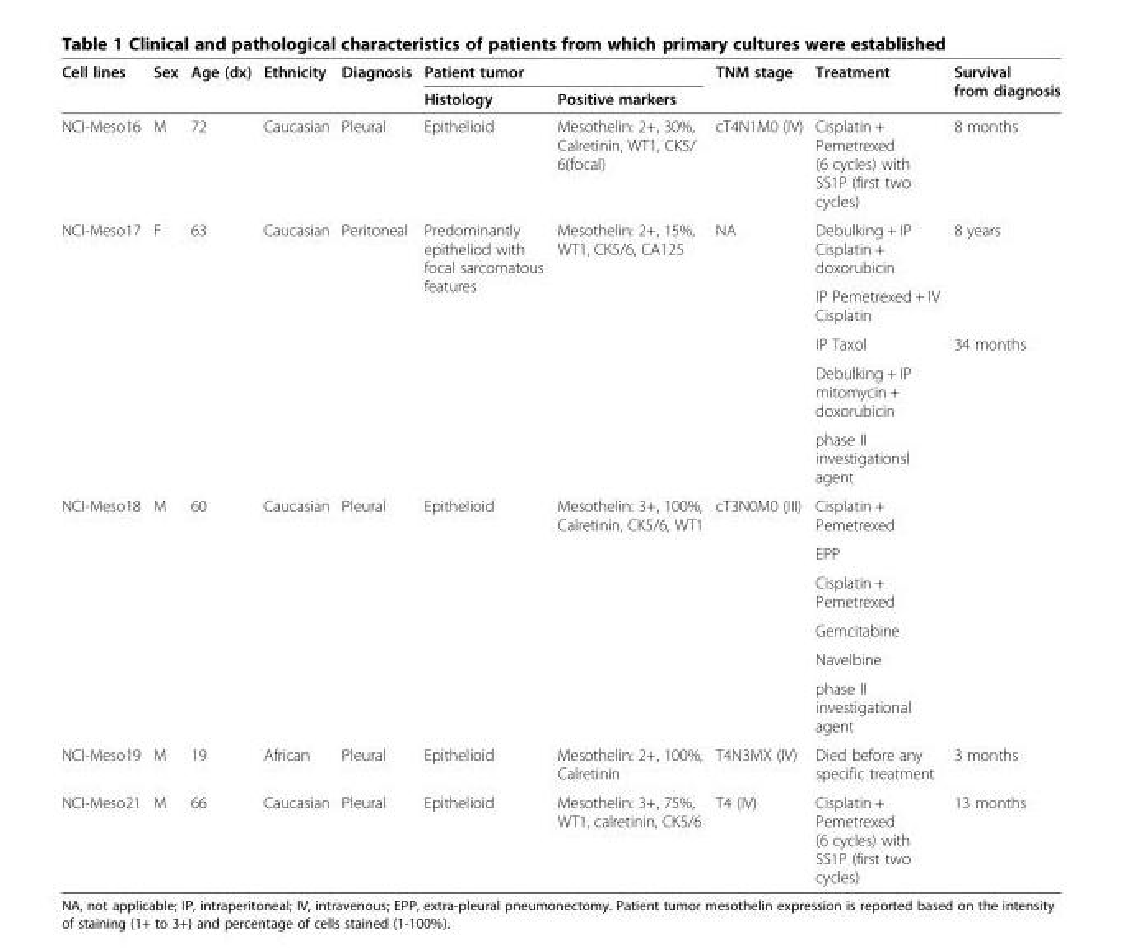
<table><thead><tr><td rowspan="2">Cell lines</td><td rowspan="2">Sex</td><td rowspan="2">Age (dx)</td><td rowspan="2">Ethnicity</td><td rowspan="2">Diagnosis</td><td colspan="2">Patient tumor</td><td rowspan="2">TNM stage</td><td rowspan="2">Treatment</td><td rowspan="2">Survival from diagnosis</td></tr><tr><td>Histology</td><td>Positive markers</td></tr></thead><tbody><tr><td>NCI-Meso16</td><td>M</td><td>72</td><td>Caucasian</td><td>Pleural</td><td>Epithelioid</td><td>Mesothelin: 2+, 30%, Calretinin, WT1, CK5/ 6(focal)</td><td>cT4N1M0 (IV)</td><td>Cisplatin + Pemetrexed (6 cycles) with SS1P (first two cycles)</td><td>8 months</td></tr><tr><td rowspan="5">NCI-Meso17</td><td rowspan="5">F</td><td rowspan="5">63</td><td rowspan="5">Caucasian</td><td rowspan="5">Peritoneal</td><td rowspan="5">Predominantly epitheliod with focal sarcomatous features</td><td rowspan="5">Mesothelin: 2+, 15%, WT1, CK5/6, CA125</td><td rowspan="5">NA</td><td>Debulking + IP Cisplatin + doxorubicin</td><td rowspan="2">8 years</td></tr><tr><td>IP Pemetrexed + IV Cisplatin</td></tr><tr><td>IP Taxol</td><td rowspan="9">34 months</td></tr><tr><td>Debulking + IP mitomycin + doxorubicin</td></tr><tr><td>phase II investigationsl agent</td></tr><tr><td rowspan="6">NCI-Meso18</td><td rowspan="6">M</td><td rowspan="6">60</td><td rowspan="6">Caucasian</td><td rowspan="6">Pleural</td><td rowspan="6">Epithelioid</td><td rowspan="6">Mesothelin: 3+, 100%, Calretinin, CK5/6, WT1</td><td rowspan="6">cT3N0M0 (III)</td><td>Cisplatin + Pemetrexed</td></tr><tr><td>EPP</td></tr><tr><td>Cisplatin + Pemetrexed</td></tr><tr><td>Gemcitabine</td></tr><tr><td>Navelbine</td></tr><tr><td>phase II investigational agent</td></tr><tr><td>NCI-Meso19</td><td>M</td><td>19</td><td>African</td><td>Pleural</td><td>Epithelioid</td><td>Mesothelin: 2+, 100%, Calretinin</td><td>T4N3MX (IV)</td><td>Died before any specific treatment</td><td>3 months</td></tr><tr><td>NCI-Meso21</td><td>M</td><td>66</td><td>Caucasian</td><td>Pleural</td><td>Epithelioid</td><td>Mesothelin: 3+, 75%, WT1, calretinin, CK5/6</td><td>T4 (IV)</td><td>Cisplatin + Pemetrexed (6 cycles) with SS1P (first two cycles)</td><td>13 months</td></tr></tbody></table>